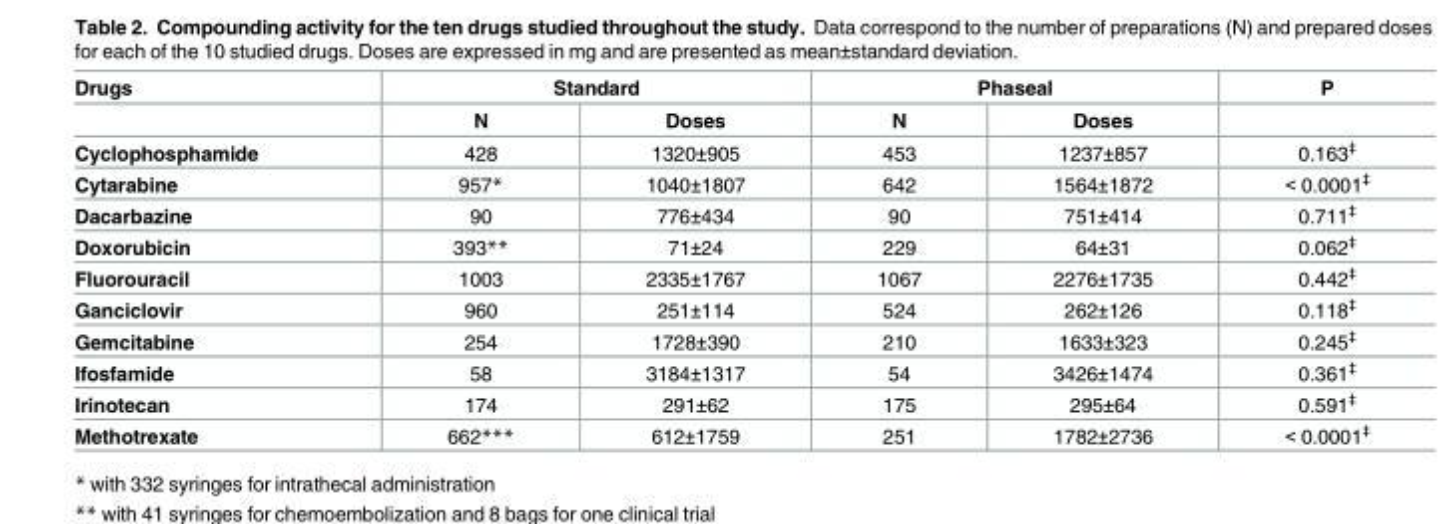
<table><thead><tr><td rowspan="2">Drugs</td><td colspan="2">Standard</td><td colspan="2">Phaseal</td><td rowspan="2">P</td></tr><tr><td>N</td><td>Doses</td><td>N</td><td>Doses</td></tr></thead><tbody><tr><td>Cyclophosphamide</td><td>428</td><td>1320±905</td><td>453</td><td>1237±857</td><td>0.163<sup>‡</sup></td></tr><tr><td>Cytarabine</td><td>957*</td><td>1040±1807</td><td>642</td><td>1564±1872</td><td>&lt; 0.0001<sup>‡</sup></td></tr><tr><td>Dacarbazine</td><td>90</td><td>776±434</td><td>90</td><td>751±414</td><td>0.711<sup>‡</sup></td></tr><tr><td>Doxorubicin</td><td>393**</td><td>71±24</td><td>229</td><td>64±31</td><td>0.062<sup>‡</sup></td></tr><tr><td>Fluorouracil</td><td>1003</td><td>2335±1767</td><td>1067</td><td>2276±1735</td><td>0.442<sup>‡</sup></td></tr><tr><td>Ganciclovir</td><td>960</td><td>251±114</td><td>524</td><td>262±126</td><td>0.118<sup>‡</sup></td></tr><tr><td>Gemcitabine</td><td>254</td><td>1728±390</td><td>210</td><td>1633±323</td><td>0.245<sup>‡</sup></td></tr><tr><td>Ifosfamide</td><td>58</td><td>3184±1317</td><td>54</td><td>3426±1474</td><td>0.361<sup>‡</sup></td></tr><tr><td>Irinotecan</td><td>174</td><td>291±62</td><td>175</td><td>295±64</td><td>0.591<sup>‡</sup></td></tr><tr><td>Methotrexate</td><td>662***</td><td>612±1759</td><td>251</td><td>1782±2736</td><td>&lt; 0.0001<sup>‡</sup></td></tr></tbody></table>